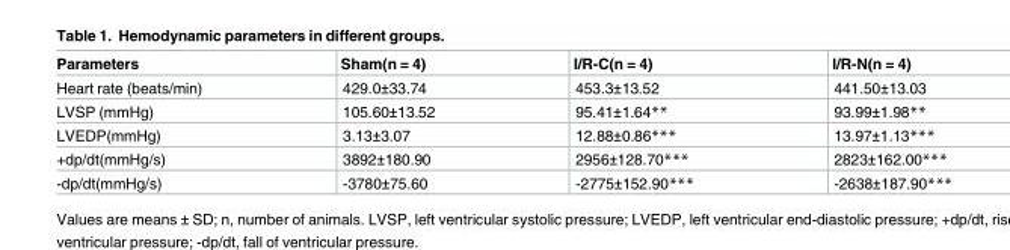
<table><thead><tr><td>Parameters</td><td>Sham(n = 4)</td><td>I/R-C(n = 4)</td><td>I/R-N(n = 4)</td></tr></thead><tbody><tr><td>Heart rate (beats/min)</td><td>429.0±33.74</td><td>453.3±13.52</td><td>441.50±13.03</td></tr><tr><td>LVSP (mmHg)</td><td>105.60±13.52</td><td>95.41±1.64**</td><td>93.99±1.98**</td></tr><tr><td>LVEDP(mmHg)</td><td>3.13±3.07</td><td>12.88±0.86***</td><td>13.97±1.13***</td></tr><tr><td>+dp/dt(mmHg/s)</td><td>3892±180.90</td><td>2956±128.70***</td><td>2823±162.00***</td></tr><tr><td>-dp/dt(mmHg/s)</td><td>-3780±75.60</td><td>-2775±152.90***</td><td>-2638±187.90***</td></tr></tbody></table>